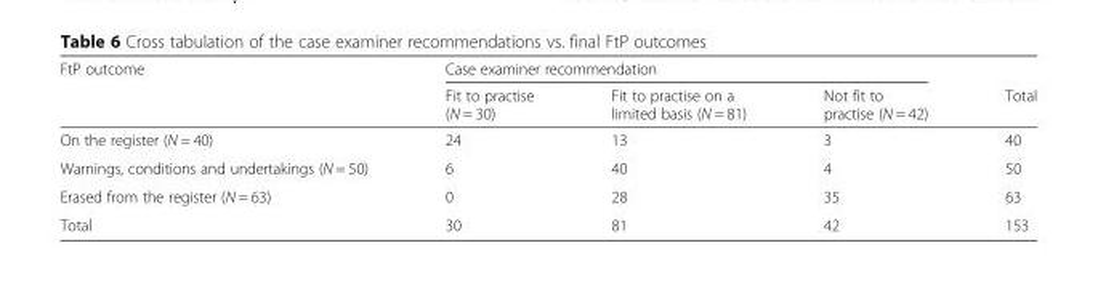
<table><thead><tr><td rowspan="2">FtP outcome</td><td colspan="3">Case examiner recommendation</td><td rowspan="2">Total</td></tr><tr><td>Fit to practise (N = 30)</td><td>Fit to practise on a limited basis (N = 81)</td><td>Not fit to practise (N = 42)</td></tr></thead><tbody><tr><td>On the register (N = 40)</td><td>24</td><td>13</td><td>3</td><td>40</td></tr><tr><td>Warnings, conditions and undertakings (N = 50)</td><td>6</td><td>40</td><td>4</td><td>50</td></tr><tr><td>Erased from the register (N = 63)</td><td>0</td><td>28</td><td>35</td><td>63</td></tr><tr><td>Total</td><td>30</td><td>81</td><td>42</td><td>153</td></tr></tbody></table>